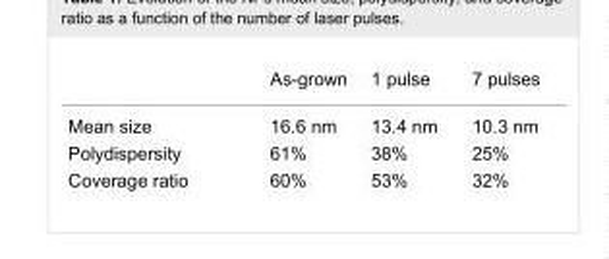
<table><thead><tr><td></td><td>As-grown</td><td>1 pulse</td><td>7 pulses</td></tr></thead><tbody><tr><td>Mean size</td><td>16.6 nm</td><td>13.4 nm</td><td>10.3 nm</td></tr><tr><td>Polydispersity</td><td>61%</td><td>38%</td><td>25%</td></tr><tr><td>Coverage ratio</td><td>60%</td><td>53%</td><td>32%</td></tr></tbody></table>